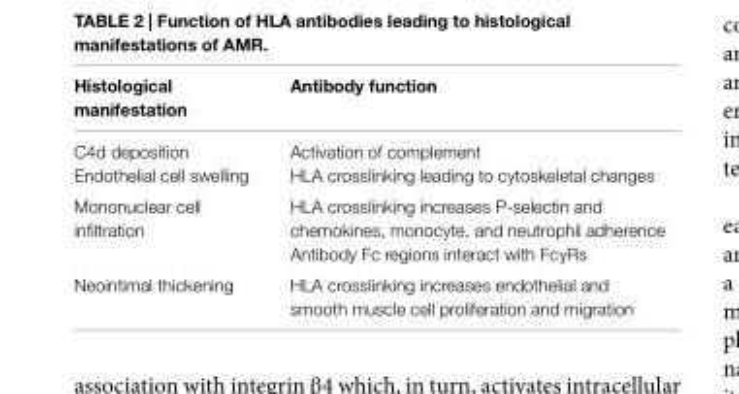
<table><thead><tr><td>Histological manifestation</td><td>Antibody function</td></tr></thead><tbody><tr><td>C4d deposition</td><td>Activation of complement</td></tr><tr><td>Endothelial cell swelling</td><td>HLA crosslinking leading to cytoskeletal changes</td></tr><tr><td rowspan="2">Mononuclear cell infiltration</td><td>HLA crosslinking increases P-selectin and chemokines, monocyte, and neutrophil adherence</td></tr><tr><td>Antibody Fc regions interact with FcγRs</td></tr><tr><td>Neointimal thickening</td><td>HLA crosslinking increases endothelial and smooth muscle cell proliferation and migration</td></tr></tbody></table>